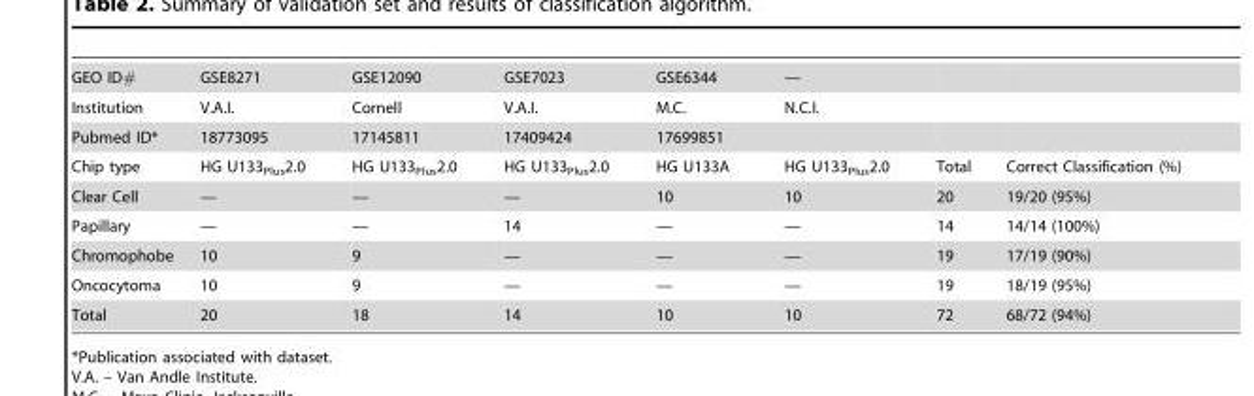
<table><tbody><tr><td>GEO ID#</td><td>GSE8271</td><td>GSE12090</td><td>GSE7023</td><td>GSE6344</td><td>—</td><td></td><td></td></tr><tr><td>Institution</td><td>V.A.I.</td><td>Cornell</td><td>V.A.I.</td><td>M.C.</td><td>N.C.I.</td><td></td><td></td></tr><tr><td>Pubmed ID*</td><td>18773095</td><td>17145811</td><td>17409424</td><td>17699851</td><td></td><td></td><td></td></tr><tr><td>Chip type</td><td>HG U133<sub>Plus</sub>2.0</td><td>HG U133<sub>Plus</sub>2.0</td><td>HG U133<sub>Plus</sub>2.0</td><td>HG U133A</td><td>HG U133<sub>Plus</sub>2.0</td><td>Total</td><td>Correct Classification (%)</td></tr><tr><td>Clear Cell</td><td>—</td><td>—</td><td>—</td><td>10</td><td>10</td><td>20</td><td>19/20 (95%)</td></tr><tr><td>Papillary</td><td>—</td><td>—</td><td>14</td><td>—</td><td>—</td><td>14</td><td>14/14 (100%)</td></tr><tr><td>Chromophobe</td><td>10</td><td>9</td><td>—</td><td>—</td><td>—</td><td>19</td><td>17/19 (90%)</td></tr><tr><td>Oncocytoma</td><td>10</td><td>9</td><td>—</td><td>—</td><td>—</td><td>19</td><td>18/19 (95%)</td></tr><tr><td>Total</td><td>20</td><td>18</td><td>14</td><td>10</td><td>10</td><td>72</td><td>68/72 (94%)</td></tr></tbody></table>